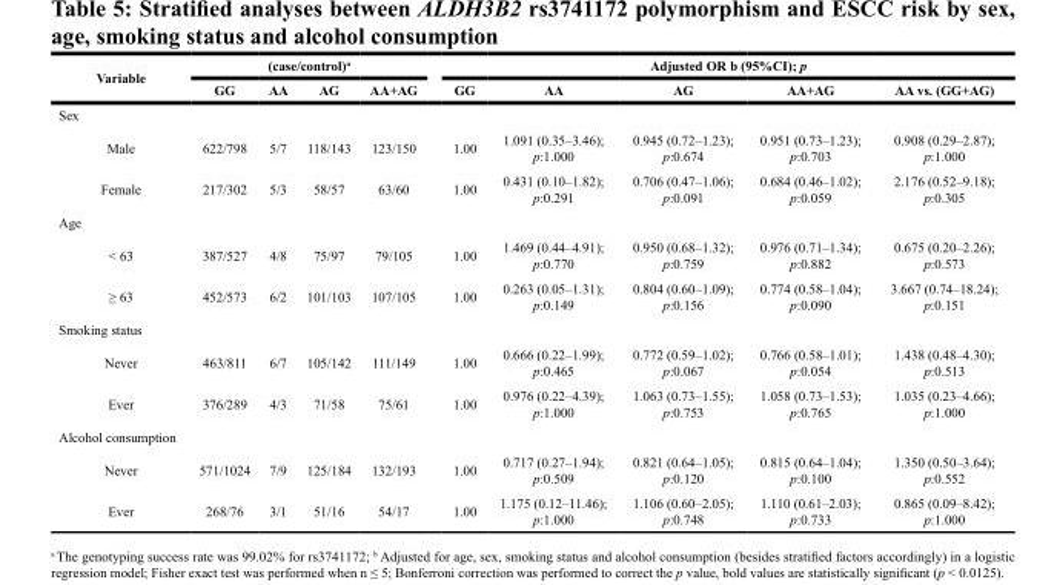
<table><thead><tr><td rowspan="2">Variable</td><td colspan="4">(case/control)<sup>a</sup></td><td colspan="5">Adjusted OR b (95%CI); p</td></tr><tr><td>GG</td><td>AA</td><td>AG</td><td>AA+AG</td><td>GG</td><td>AA</td><td>AG</td><td>AA+AG</td><td>AA vs. (GG+AG)</td></tr></thead><tbody><tr><td colspan="10">Sex</td></tr><tr><td>Male</td><td>622/798</td><td>5/7</td><td>118/143</td><td>123/150</td><td>1.00</td><td>1.091 (0.35–3.46); p:1.000</td><td>0.945 (0.72–1.23); p:0.674</td><td>0.951 (0.73–1.23); p:0.703</td><td>0.908 (0.29–2.87); p:1.000</td></tr><tr><td>Female</td><td>217/302</td><td>5/3</td><td>58/57</td><td>63/60</td><td>1.00</td><td>0.431 (0.10–1.82); p:0.291</td><td>0.706 (0.47–1.06); p:0.091</td><td>0.684 (0.46–1.02); p:0.059</td><td>2.176 (0.52–9.18); p:0.305</td></tr><tr><td colspan="10">Age</td></tr><tr><td>&lt; 63</td><td>387/527</td><td>4/8</td><td>75/97</td><td>79/105</td><td>1.00</td><td>1.469 (0.44–4.91); p:0.770</td><td>0.950 (0.68–1.32); p:0.759</td><td>0.976 (0.71–1.34); p:0.882</td><td>0.675 (0.20–2.26); p:0.573</td></tr><tr><td>≥ 63</td><td>452/573</td><td>6/2</td><td>101/103</td><td>107/105</td><td>1.00</td><td>0.263 (0.05–1.31); p:0.149</td><td>0.804 (0.60–1.09); p:0.156</td><td>0.774 (0.58–1.04); p:0.090</td><td>3.667 (0.74–18.24); p:0.151</td></tr><tr><td colspan="10">Smoking status</td></tr><tr><td>Never</td><td>463/811</td><td>6/7</td><td>105/142</td><td>111/149</td><td>1.00</td><td>0.666 (0.22–1.99); p:0.465</td><td>0.772 (0.59–1.02); p:0.067</td><td>0.766 (0.58–1.01); p:0.054</td><td>1.438 (0.48–4.30); p:0.513</td></tr><tr><td>Ever</td><td>376/289</td><td>4/3</td><td>71/58</td><td>75/61</td><td>1.00</td><td>0.976 (0.22–4.39); p:1.000</td><td>1.063 (0.73–1.55); p:0.753</td><td>1.058 (0.73–1.53); p:0.765</td><td>1.035 (0.23–4.66); p:1.000</td></tr><tr><td colspan="10">Alcohol consumption</td></tr><tr><td>Never</td><td>571/1024</td><td>7/9</td><td>125/184</td><td>132/193</td><td>1.00</td><td>0.717 (0.27–1.94); p:0.509</td><td>0.821 (0.64–1.05); p:0.120</td><td>0.815 (0.64–1.04); p:0.100</td><td>1.350 (0.50–3.64); p:0.552</td></tr><tr><td>Ever</td><td>268/76</td><td>3/1</td><td>51/16</td><td>54/17</td><td>1.00</td><td>1.175 (0.12–11.46); p:1.000</td><td>1.106 (0.60–2.05); p:0.748</td><td>1.110 (0.61–2.03); p:0.733</td><td>0.865 (0.09–8.42); p:1.000</td></tr></tbody></table>